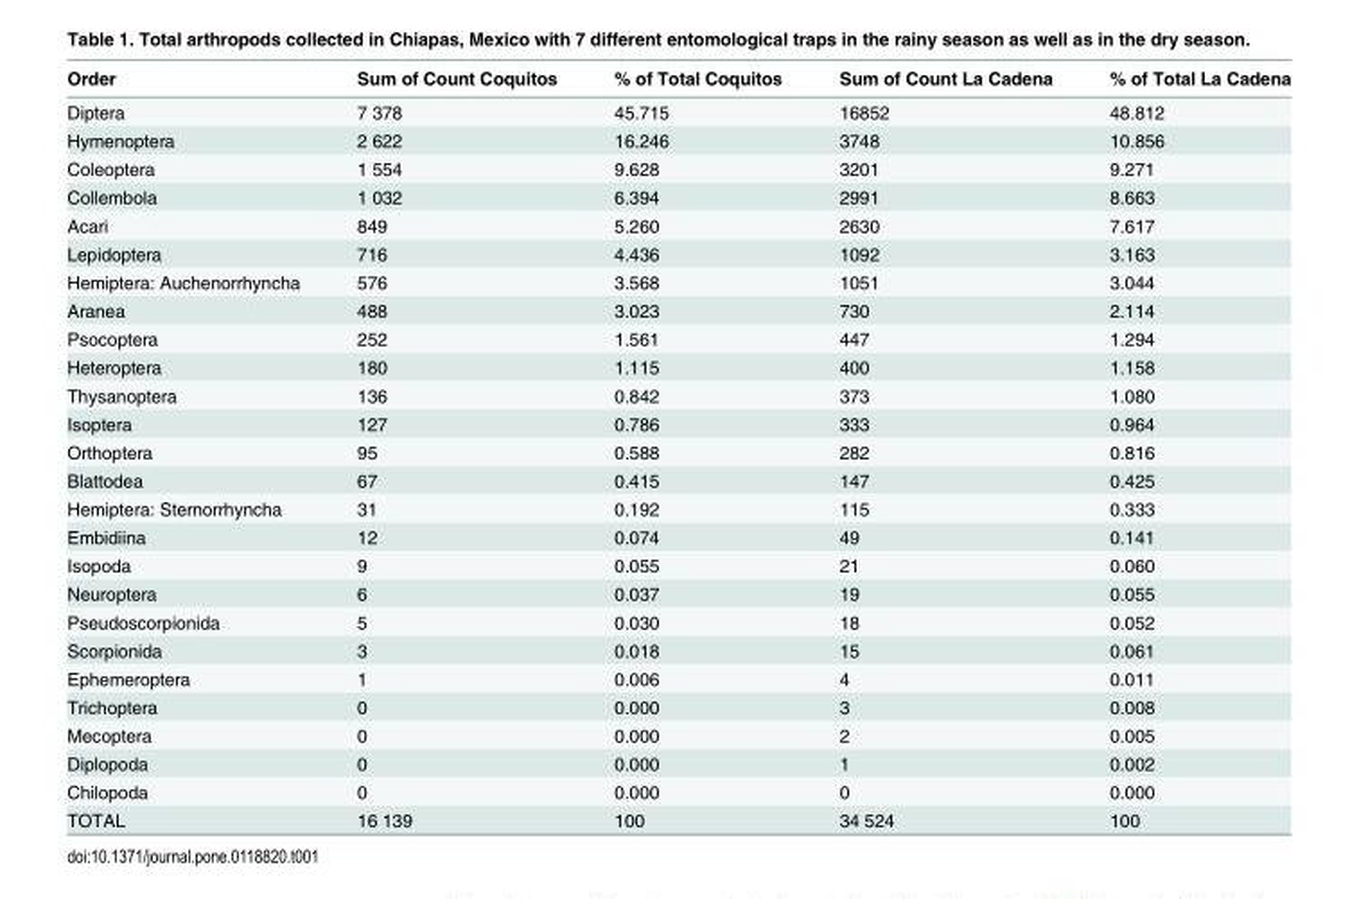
<table><thead><tr><td>Order</td><td>Sum of Count Coquitos</td><td>% of Total Coquitos</td><td>Sum of Count La Cadena</td><td>% of Total La Cadena</td></tr></thead><tbody><tr><td>Diptera</td><td>7 378</td><td>45.715</td><td>16852</td><td>48.812</td></tr><tr><td>Hymenoptera</td><td>2 622</td><td>16.246</td><td>3748</td><td>10.856</td></tr><tr><td>Coleoptera</td><td>1 554</td><td>9.628</td><td>3201</td><td>9.271</td></tr><tr><td>Collembola</td><td>1 032</td><td>6.394</td><td>2991</td><td>8.663</td></tr><tr><td>Acari</td><td>849</td><td>5.260</td><td>2630</td><td>7.617</td></tr><tr><td>Lepidoptera</td><td>716</td><td>4.436</td><td>1092</td><td>3.163</td></tr><tr><td>Hemiptera: Auchenorrhyncha</td><td>576</td><td>3.568</td><td>1051</td><td>3.044</td></tr><tr><td>Aranea</td><td>488</td><td>3.023</td><td>730</td><td>2.114</td></tr><tr><td>Psocoptera</td><td>252</td><td>1.561</td><td>447</td><td>1.294</td></tr><tr><td>Heteroptera</td><td>180</td><td>1.115</td><td>400</td><td>1.158</td></tr><tr><td>Thysanoptera</td><td>136</td><td>0.842</td><td>373</td><td>1.080</td></tr><tr><td>Isoptera</td><td>127</td><td>0.786</td><td>333</td><td>0.964</td></tr><tr><td>Orthoptera</td><td>95</td><td>0.588</td><td>282</td><td>0.816</td></tr><tr><td>Blattodea</td><td>67</td><td>0.415</td><td>147</td><td>0.425</td></tr><tr><td>Hemiptera: Sternorrhyncha</td><td>31</td><td>0.192</td><td>115</td><td>0.333</td></tr><tr><td>Embidiina</td><td>12</td><td>0.074</td><td>49</td><td>0.141</td></tr><tr><td>Isopoda</td><td>9</td><td>0.055</td><td>21</td><td>0.060</td></tr><tr><td>Neuroptera</td><td>6</td><td>0.037</td><td>19</td><td>0.055</td></tr><tr><td>Pseudoscorpionida</td><td>5</td><td>0.030</td><td>18</td><td>0.052</td></tr><tr><td>Scorpionida</td><td>3</td><td>0.018</td><td>15</td><td>0.061</td></tr><tr><td>Ephemeroptera</td><td>1</td><td>0.006</td><td>4</td><td>0.011</td></tr><tr><td>Trichoptera</td><td>0</td><td>0.000</td><td>3</td><td>0.008</td></tr><tr><td>Mecoptera</td><td>0</td><td>0.000</td><td>2</td><td>0.005</td></tr><tr><td>Diplopoda</td><td>0</td><td>0.000</td><td>1</td><td>0.002</td></tr><tr><td>Chilopoda</td><td>0</td><td>0.000</td><td>0</td><td>0.000</td></tr><tr><td>TOTAL</td><td>16 139</td><td>100</td><td>34 524</td><td>100</td></tr></tbody></table>